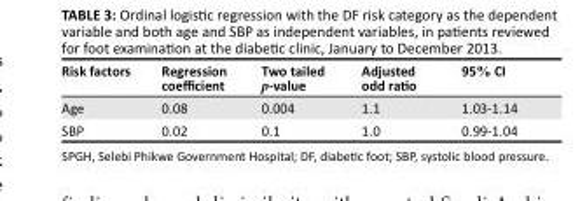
<table><thead><tr><td>Risk factors</td><td>Regression coefficient</td><td>Two tailed p-value</td><td>Adjusted odd ratio</td><td>95% CI</td></tr></thead><tbody><tr><td>Age</td><td>0.08</td><td>0.004</td><td>1.1</td><td>1.03-1.14</td></tr><tr><td>SBP</td><td>0.02</td><td>0.1</td><td>1.0</td><td>0.99-1.04</td></tr></tbody></table>